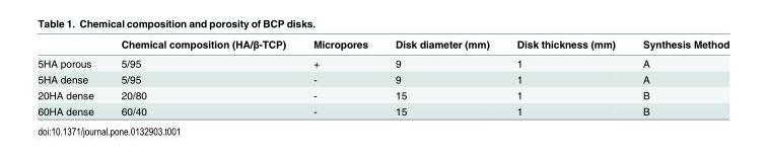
<table><thead><tr><td></td><td>Chemical composition (HA/β-TCP)</td><td>Micropores</td><td>Disk diameter (mm)</td><td>Disk thickness (mm)</td><td>Synthesis Method</td></tr></thead><tbody><tr><td>5HA porous</td><td>5/95</td><td>+</td><td>9</td><td>1</td><td>A</td></tr><tr><td>5HA dense</td><td>5/95</td><td>-</td><td>9</td><td>1</td><td>A</td></tr><tr><td>20HA dense</td><td>20/80</td><td>-</td><td>15</td><td>1</td><td>B</td></tr><tr><td>60HA dense</td><td>60/40</td><td>-</td><td>15</td><td>1</td><td>B</td></tr></tbody></table>